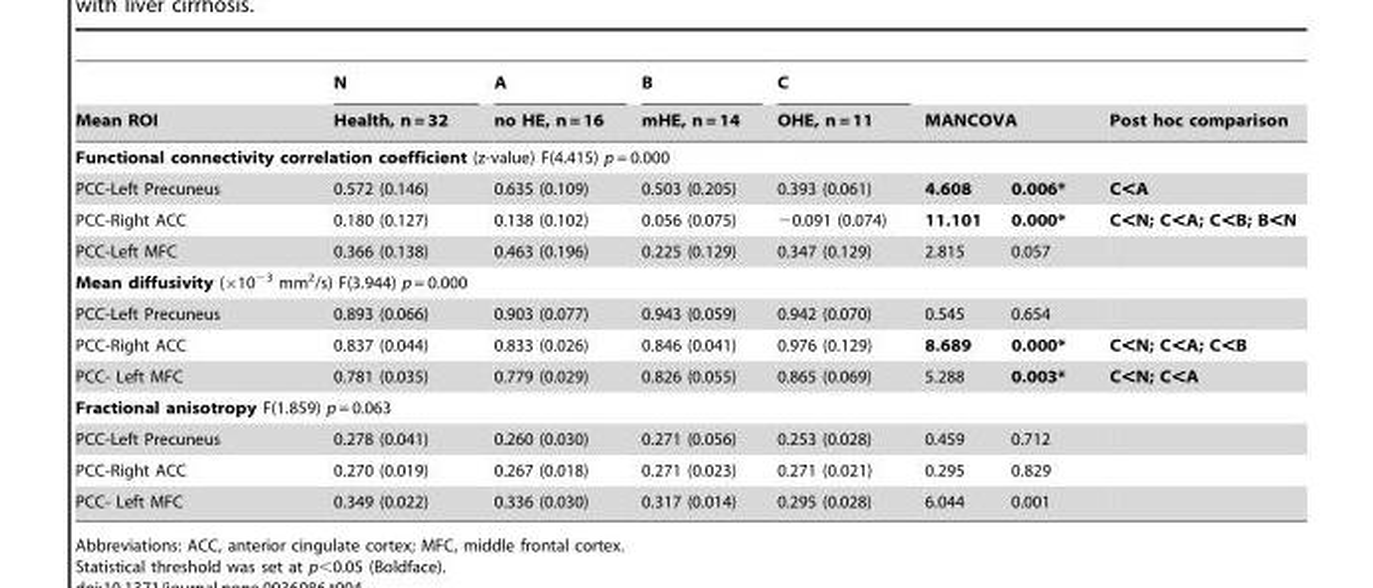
<table><thead><tr><td rowspan="2">Mean ROI</td><td rowspan="2">N Health, n = 32</td><td rowspan="2">A no HE, n = 16</td><td rowspan="2">B mHE, n = 14</td><td rowspan="2">C OHE, n = 11</td><td></td><td></td><td rowspan="2">Post hoc comparison</td></tr><tr><td colspan="2">MANCOVA</td></tr></thead><tbody><tr><td colspan="8">Functional connectivity correlation coefficient (z-value) F(4.415) p = 0.000</td></tr><tr><td>PCC-Left Precuneus</td><td>0.572 (0.146)</td><td>0.635 (0.109)</td><td>0.503 (0.205)</td><td>0.393 (0.061)</td><td>4.608</td><td>0.006*</td><td>C&lt;A</td></tr><tr><td>PCC-Right ACC</td><td>0.180 (0.127)</td><td>0.138 (0.102)</td><td>0.056 (0.075)</td><td>−0.091 (0.074)</td><td>11.101</td><td>0.000*</td><td>C&lt;N; C&lt;A; C&lt;B; B&lt;N</td></tr><tr><td>PCC-Left MFC</td><td>0.366 (0.138)</td><td>0.463 (0.196)</td><td>0.225 (0.129)</td><td>0.347 (0.129)</td><td>2.815</td><td>0.057</td><td></td></tr><tr><td colspan="8">Mean diffusivity (×10<sup>−3</sup> mm<sup>2</sup>/s) F(3.944) p = 0.000</td></tr><tr><td>PCC-Left Precuneus</td><td>0.893 (0.066)</td><td>0.903 (0.077)</td><td>0.943 (0.059)</td><td>0.942 (0.070)</td><td>0.545</td><td>0.654</td><td></td></tr><tr><td>PCC-Right ACC</td><td>0.837 (0.044)</td><td>0.833 (0.026)</td><td>0.846 (0.041)</td><td>0.976 (0.129)</td><td>8.689</td><td>0.000*</td><td>C&lt;N; C&lt;A; C&lt;B</td></tr><tr><td>PCC- Left MFC</td><td>0.781 (0.035)</td><td>0.779 (0.029)</td><td>0.826 (0.055)</td><td>0.865 (0.069)</td><td>5.288</td><td>0.003*</td><td>C&lt;N; C&lt;A</td></tr><tr><td colspan="8">Fractional anisotropy F(1.859) p = 0.063</td></tr><tr><td>PCC-Left Precuneus</td><td>0.278 (0.041)</td><td>0.260 (0.030)</td><td>0.271 (0.056)</td><td>0.253 (0.028)</td><td>0.459</td><td>0.712</td><td></td></tr><tr><td>PCC-Right ACC</td><td>0.270 (0.019)</td><td>0.267 (0.018)</td><td>0.271 (0.023)</td><td>0.271 (0.021)</td><td>0.295</td><td>0.829</td><td></td></tr><tr><td>PCC- Left MFC</td><td>0.349 (0.022)</td><td>0.336 (0.030)</td><td>0.317 (0.014)</td><td>0.295 (0.028)</td><td>6.044</td><td>0.001</td><td></td></tr></tbody></table>